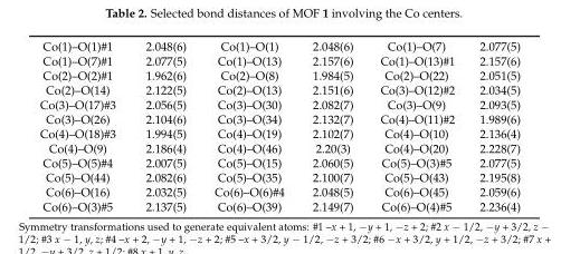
<table><tbody><tr><td>Co(1)–O(1)#1</td><td>2.048(6)</td><td>Co(1)–O(1)</td><td>2.048(6)</td><td>Co(1)–O(7)</td><td>2.077(5)</td></tr><tr><td>Co(1)–O(7)#1</td><td>2.077(5)</td><td>Co(1)–O(13)</td><td>2.157(6)</td><td>Co(1)–O(13)#1</td><td>2.157(6)</td></tr><tr><td>Co(2)–O(2)#1</td><td>1.962(6)</td><td>Co(2)–O(8)</td><td>1.984(5)</td><td>Co(2)–O(22)</td><td>2.051(5)</td></tr><tr><td>Co(2)–O(14)</td><td>2.122(5)</td><td>Co(2)–O(13)</td><td>2.151(6)</td><td>Co(3)–O(12)#2</td><td>2.034(5)</td></tr><tr><td>Co(3)–O(17)#3</td><td>2.056(5)</td><td>Co(3)–O(30)</td><td>2.082(7)</td><td>Co(3)–O(9)</td><td>2.093(5)</td></tr><tr><td>Co(3)–O(26)</td><td>2.104(6)</td><td>Co(3)–O(34)</td><td>2.132(7)</td><td>Co(4)–O(11)#2</td><td>1.989(6)</td></tr><tr><td>Co(4)–O(18)#3</td><td>1.994(5)</td><td>Co(4)–O(19)</td><td>2.102(7)</td><td>Co(4)–O(10)</td><td>2.136(4)</td></tr><tr><td>Co(4)–O(9)</td><td>2.186(4)</td><td>Co(4)–O(46)</td><td>2.20(3)</td><td>Co(4)–O(20)</td><td>2.228(7)</td></tr><tr><td>Co(5)–O(5)#4</td><td>2.007(5)</td><td>Co(5)–O(15)</td><td>2.060(5)</td><td>Co(5)–O(3)#5</td><td>2.077(5)</td></tr><tr><td>Co(5)–O(44)</td><td>2.082(6)</td><td>Co(5)–O(35)</td><td>2.100(7)</td><td>Co(5)–O(43)</td><td>2.195(8)</td></tr><tr><td>Co(6)–O(16)</td><td>2.032(5)</td><td>Co(6)–O(6)#4</td><td>2.048(5)</td><td>Co(6)–O(45)</td><td>2.059(6)</td></tr><tr><td>Co(6)–O(3)#5</td><td>2.137(5)</td><td>Co(6)–O(39)</td><td>2.149(7)</td><td>Co(6)–O(4)#5</td><td>2.236(4)</td></tr></tbody></table>